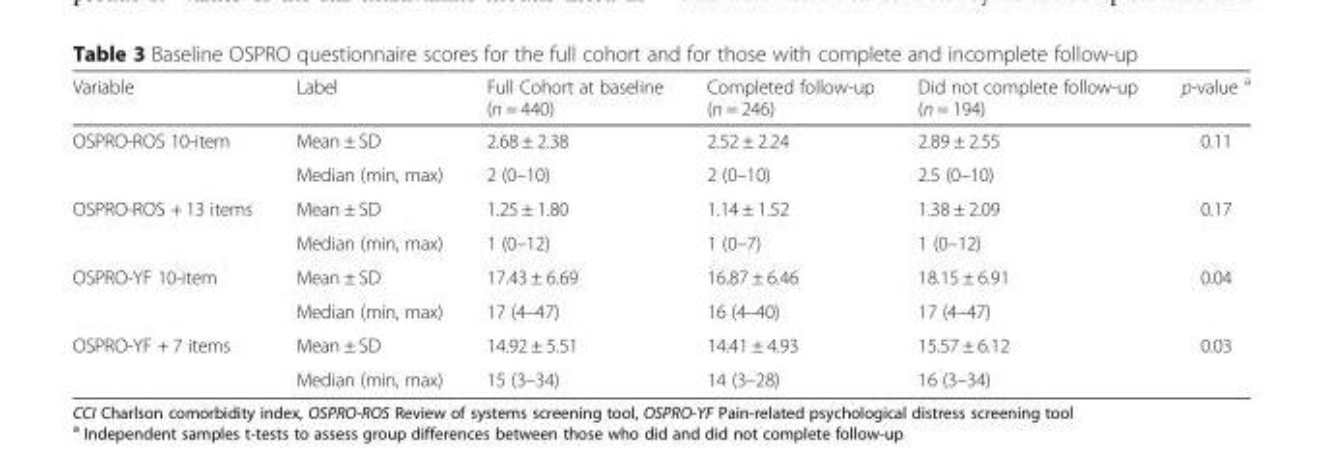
<table><thead><tr><td>Variable</td><td>Label</td><td>Full Cohort at baseline (n = 440)</td><td>Completed follow-up (n = 246)</td><td>Did not complete follow-up (n = 194)</td><td>p-value <sup>a</sup></td></tr></thead><tbody><tr><td rowspan="2">OSPRO-ROS 10-item</td><td>Mean ± SD</td><td>2.68 ± 2.38</td><td>2.52 ± 2.24</td><td>2.89 ± 2.55</td><td rowspan="2">0.11</td></tr><tr><td>Median (min, max)</td><td>2 (0–10)</td><td>2 (0–10)</td><td>2.5 (0–10)</td></tr><tr><td rowspan="2">OSPRO-ROS + 13 items</td><td>Mean ± SD</td><td>1.25 ± 1.80</td><td>1.14 ± 1.52</td><td>1.38 ± 2.09</td><td rowspan="2">0.17</td></tr><tr><td>Median (min, max)</td><td>1 (0–12)</td><td>1 (0–7)</td><td>1 (0–12)</td></tr><tr><td rowspan="2">OSPRO-YF 10-item</td><td>Mean ± SD</td><td>17.43 ± 6.69</td><td>16.87 ± 6.46</td><td>18.15 ± 6.91</td><td rowspan="2">0.04</td></tr><tr><td>Median (min, max)</td><td>17 (4–47)</td><td>16 (4–40)</td><td>17 (4–47)</td></tr><tr><td rowspan="2">OSPRO-YF + 7 items</td><td>Mean ± SD</td><td>14.92 ± 5.51</td><td>14.41 ± 4.93</td><td>15.57 ± 6.12</td><td rowspan="2">0.03</td></tr><tr><td>Median (min, max)</td><td>15 (3–34)</td><td>14 (3–28)</td><td>16 (3–34)</td></tr></tbody></table>